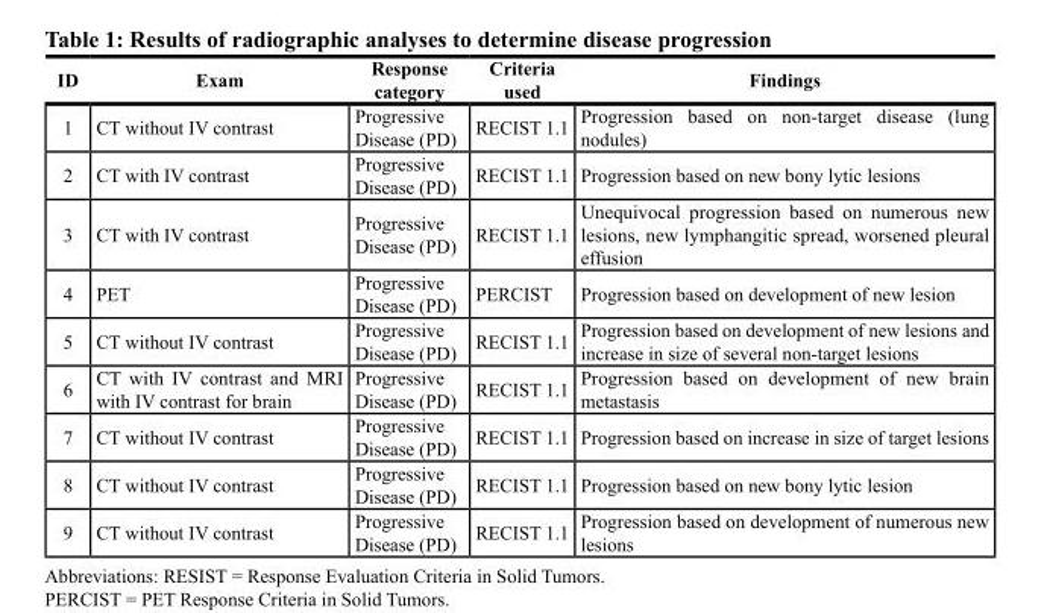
<table><thead><tr><td>ID</td><td>Exam</td><td>Response category</td><td>Criteria used</td><td>Findings</td></tr></thead><tbody><tr><td>1</td><td>CT without IV contrast</td><td>Progressive Disease (PD)</td><td>RECIST 1.1</td><td>Progression based on non-target disease (lung nodules)</td></tr><tr><td>2</td><td>CT with IV contrast</td><td>Progressive Disease (PD)</td><td>RECIST 1.1</td><td>Progression based on new bony lytic lesions</td></tr><tr><td>3</td><td>CT with IV contrast</td><td>Progressive Disease (PD)</td><td>RECIST 1.1</td><td>Unequivocal progression based on numerous new lesions, new lymphangitic spread, worsened pleural effusion</td></tr><tr><td>4</td><td>PET</td><td>Progressive Disease (PD)</td><td>PERCIST</td><td>Progression based on development of new lesion</td></tr><tr><td>5</td><td>CT without IV contrast</td><td>Progressive Disease (PD)</td><td>RECIST 1.1</td><td>Progression based on development of new lesions and increase in size of several non-target lesions</td></tr><tr><td>6</td><td>CT with IV contrast and MRI with IV contrast for brain</td><td>Progressive Disease (PD)</td><td>RECIST 1.1</td><td>Progression based on development of new brain metastasis</td></tr><tr><td>7</td><td>CT without IV contrast</td><td>Progressive Disease (PD)</td><td>RECIST 1.1</td><td>Progression based on increase in size of target lesions</td></tr><tr><td>8</td><td>CT without IV contrast</td><td>Progressive Disease (PD)</td><td>RECIST 1.1</td><td>Progression based on new bony lytic lesion</td></tr><tr><td>9</td><td>CT without IV contrast</td><td>Progressive Disease (PD)</td><td>RECIST 1.1</td><td>Progression based on development of numerous new lesions</td></tr></tbody></table>